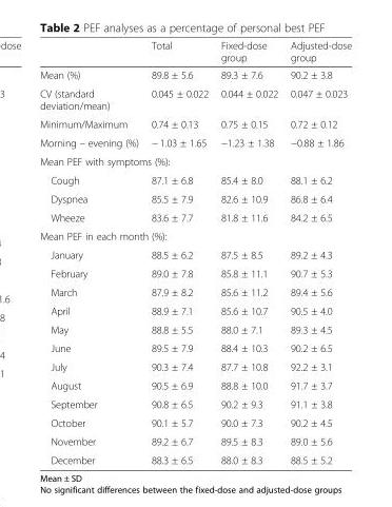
<table><thead><tr><td></td><td>Total</td><td>Fixed-dose group</td><td>Adjusted-dose group</td></tr></thead><tbody><tr><td>Mean (%)</td><td>89.8 ± 5.6</td><td>89.3 ± 7.6</td><td>90.2 ± 3.8</td></tr><tr><td>CV (standard deviation/mean)</td><td>0.045 ± 0.022</td><td>0.044 ± 0.022</td><td>0.047 ± 0.023</td></tr><tr><td>Minimum/Maximum</td><td>0.74 ± 0.13</td><td>0.75 ± 0.15</td><td>0.72 ± 0.12</td></tr><tr><td>Morning – evening (%)</td><td>− 1.03 ± 1.65</td><td>−1.23 ± 1.38</td><td>−0.88 ± 1.86</td></tr><tr><td colspan="4">Mean PEF with symptoms (%):</td></tr><tr><td>Cough</td><td>87.1 ± 6.8</td><td>85.4 ± 8.0</td><td>88.1 ± 6.2</td></tr><tr><td>Dyspnea</td><td>85.5 ± 7.9</td><td>82.6 ± 10.9</td><td>86.8 ± 6.4</td></tr><tr><td>Wheeze</td><td>83.6 ± 7.7</td><td>81.8 ± 11.6</td><td>84.2 ± 6.5</td></tr><tr><td colspan="4">Mean PEF in each month (%):</td></tr><tr><td>January</td><td>88.5 ± 6.2</td><td>87.5 ± 8.5</td><td>89.2 ± 4.3</td></tr><tr><td>February</td><td>89.0 ± 7.8</td><td>85.8 ± 11.1</td><td>90.7 ± 5.3</td></tr><tr><td>March</td><td>87.9 ± 8.2</td><td>85.6 ± 11.2</td><td>89.4 ± 5.6</td></tr><tr><td>April</td><td>88.9 ± 7.1</td><td>85.6 ± 10.7</td><td>90.5 ± 4.0</td></tr><tr><td>May</td><td>88.8 ± 5.5</td><td>88.0 ± 7.1</td><td>89.3 ± 4.5</td></tr><tr><td>June</td><td>89.5 ± 7.9</td><td>88.4 ± 10.3</td><td>90.2 ± 6.5</td></tr><tr><td>July</td><td>90.3 ± 7.4</td><td>87.7 ± 10.8</td><td>92.2 ± 3.1</td></tr><tr><td>August</td><td>90.5 ± 6.9</td><td>88.8 ± 10.0</td><td>91.7 ± 3.7</td></tr><tr><td>September</td><td>90.8 ± 6.5</td><td>90.2 ± 9.3</td><td>91.1 ± 3.8</td></tr><tr><td>October</td><td>90.1 ± 5.7</td><td>90.0 ± 7.3</td><td>90.2 ± 4.5</td></tr><tr><td>November</td><td>89.2 ± 6.7</td><td>89.5 ± 8.3</td><td>89.0 ± 5.6</td></tr><tr><td>December</td><td>88.3 ± 6.5</td><td>88.0 ± 8.3</td><td>88.5 ± 5.2</td></tr></tbody></table>